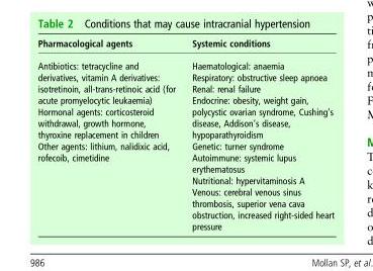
<table><thead><tr><td>Pharmacological agents</td><td>Systemic conditions</td></tr></thead><tbody><tr><td>Antibiotics: tetracycline and derivatives, vitamin A derivatives: isotretinoin, all-trans-retinoic acid (for acute promyelocytic leukaemia) Hormonal agents: corticosteroid withdrawal, growth hormone, thyroxine replacement in children Other agents: lithium, nalidixic acid, rofecoib, cimetidine</td><td>Haematological: anaemia Respiratory: obstructive sleep apnoea Renal: renal failure Endocrine: obesity, weight gain, polycystic ovarian syndrome, Cushing’s disease, Addison’s disease, hypoparathyroidism Genetic: turner syndrome Autoimmune: systemic lupus erythematosus Nutritional: hypervitaminosis A Venous: cerebral venous sinus thrombosis, superior vena cava obstruction, increased right-sided heart pressure</td></tr></tbody></table>